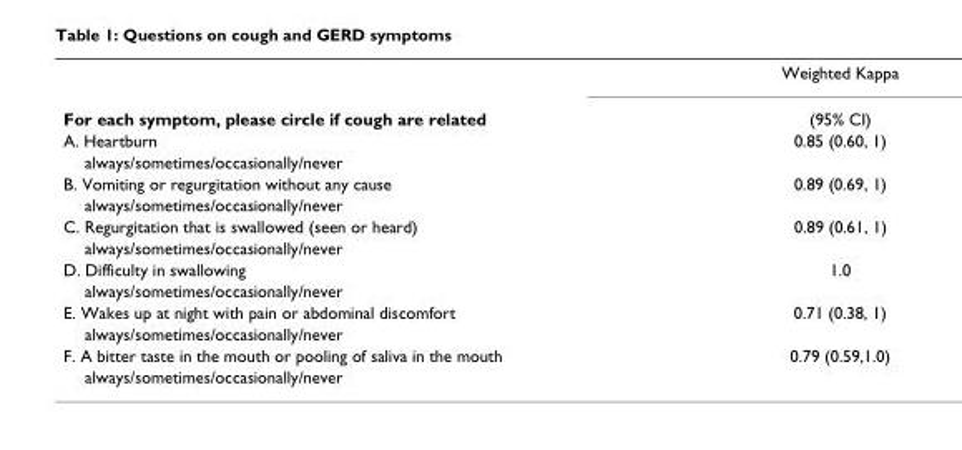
<table><thead><tr><td></td><td>Weighted Kappa</td></tr></thead><tbody><tr><td>For each symptom, please circle if cough are related</td><td>(95% CI)</td></tr><tr><td>A. Heartburn</td><td>0.85 (0.60, 1)</td></tr><tr><td colspan="2">always/sometimes/occasionally/never</td></tr><tr><td>B. Vomiting or regurgitation without any cause</td><td>0.89 (0.69, 1)</td></tr><tr><td colspan="2">always/sometimes/occasionally/never</td></tr><tr><td>C. Regurgitation that is swallowed (seen or heard)</td><td>0.89 (0.61, 1)</td></tr><tr><td colspan="2">always/sometimes/occasionally/never</td></tr><tr><td>D. Difficulty in swallowing</td><td>1.0</td></tr><tr><td colspan="2">always/sometimes/occasionally/never</td></tr><tr><td>E. Wakes up at night with pain or abdominal discomfort</td><td>0.71 (0.38, 1)</td></tr><tr><td colspan="2">always/sometimes/occasionally/never</td></tr><tr><td>F. A bitter taste in the mouth or pooling of saliva in the mouth</td><td>0.79 (0.59,1.0)</td></tr><tr><td>always/sometimes/occasionally/never</td><td></td></tr></tbody></table>